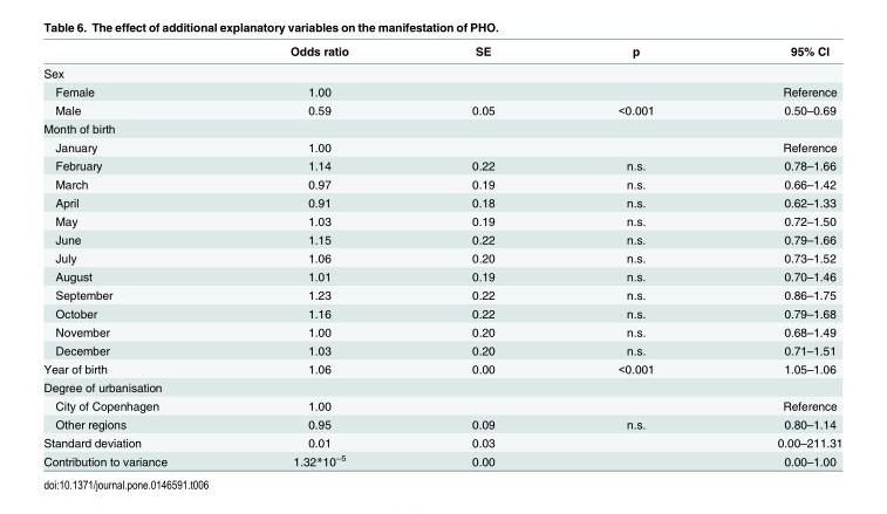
<table><thead><tr><td></td><td>Odds ratio</td><td>SE</td><td>p</td><td>95% CI</td></tr></thead><tbody><tr><td colspan="5">Sex</td></tr><tr><td>Female</td><td>1.00</td><td></td><td></td><td>Reference</td></tr><tr><td>Male</td><td>0.59</td><td>0.05</td><td>&lt;0.001</td><td>0.50–0.69</td></tr><tr><td colspan="5">Month of birth</td></tr><tr><td>January</td><td>1.00</td><td></td><td></td><td>Reference</td></tr><tr><td>February</td><td>1.14</td><td>0.22</td><td>n.s.</td><td>0.78–1.66</td></tr><tr><td>March</td><td>0.97</td><td>0.19</td><td>n.s.</td><td>0.66–1.42</td></tr><tr><td>April</td><td>0.91</td><td>0.18</td><td>n.s.</td><td>0.62–1.33</td></tr><tr><td>May</td><td>1.03</td><td>0.19</td><td>n.s.</td><td>0.72–1.50</td></tr><tr><td>June</td><td>1.15</td><td>0.22</td><td>n.s.</td><td>0.79–1.66</td></tr><tr><td>July</td><td>1.06</td><td>0.20</td><td>n.s.</td><td>0.73–1.52</td></tr><tr><td>August</td><td>1.01</td><td>0.19</td><td>n.s.</td><td>0.70–1.46</td></tr><tr><td>September</td><td>1.23</td><td>0.22</td><td>n.s.</td><td>0.86–1.75</td></tr><tr><td>October</td><td>1.16</td><td>0.22</td><td>n.s.</td><td>0.79–1.68</td></tr><tr><td>November</td><td>1.00</td><td>0.20</td><td>n.s.</td><td>0.68–1.49</td></tr><tr><td>December</td><td>1.03</td><td>0.20</td><td>n.s.</td><td>0.71–1.51</td></tr><tr><td>Year of birth</td><td>1.06</td><td>0.00</td><td>&lt;0.001</td><td>1.05–1.06</td></tr><tr><td colspan="5">Degree of urbanisation</td></tr><tr><td>City of Copenhagen</td><td>1.00</td><td></td><td></td><td>Reference</td></tr><tr><td>Other regions</td><td>0.95</td><td>0.09</td><td>n.s.</td><td>0.80–1.14</td></tr><tr><td>Standard deviation</td><td>0.01</td><td>0.03</td><td></td><td>0.00–211.31</td></tr><tr><td>Contribution to variance</td><td>1.32*10<sup>−5</sup></td><td>0.00</td><td></td><td>0.00–1.00</td></tr></tbody></table>